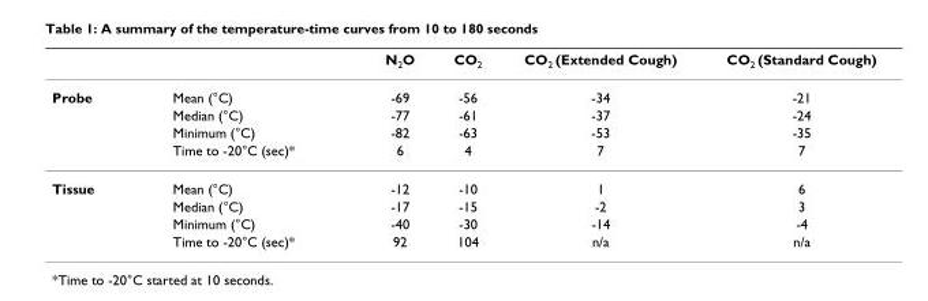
<table><thead><tr><td></td><td></td><td>N<sub>2</sub>O</td><td>CO<sub>2</sub></td><td>CO<sub>2</sub> (Extended Cough)</td><td>CO<sub>2</sub> (Standard Cough)</td></tr></thead><tbody><tr><td rowspan="4">Probe</td><td>Mean (°C)</td><td>-69</td><td>-56</td><td>-34</td><td>-21</td></tr><tr><td>Median (°C)</td><td>-77</td><td>-61</td><td>-37</td><td>-24</td></tr><tr><td>Minimum (°C)</td><td>-82</td><td>-63</td><td>-53</td><td>-35</td></tr><tr><td>Time to -20°C (sec)*</td><td>6</td><td>4</td><td>7</td><td>7</td></tr><tr><td rowspan="4">Tissue</td><td>Mean (°C)</td><td>-12</td><td>-10</td><td>1</td><td>6</td></tr><tr><td>Median (°C)</td><td>-17</td><td>-15</td><td>-2</td><td>3</td></tr><tr><td>Minimum (°C)</td><td>-40</td><td>-30</td><td>-14</td><td>-4</td></tr><tr><td>Time to -20°C (sec)*</td><td>92</td><td>104</td><td>n/a</td><td>n/a</td></tr></tbody></table>